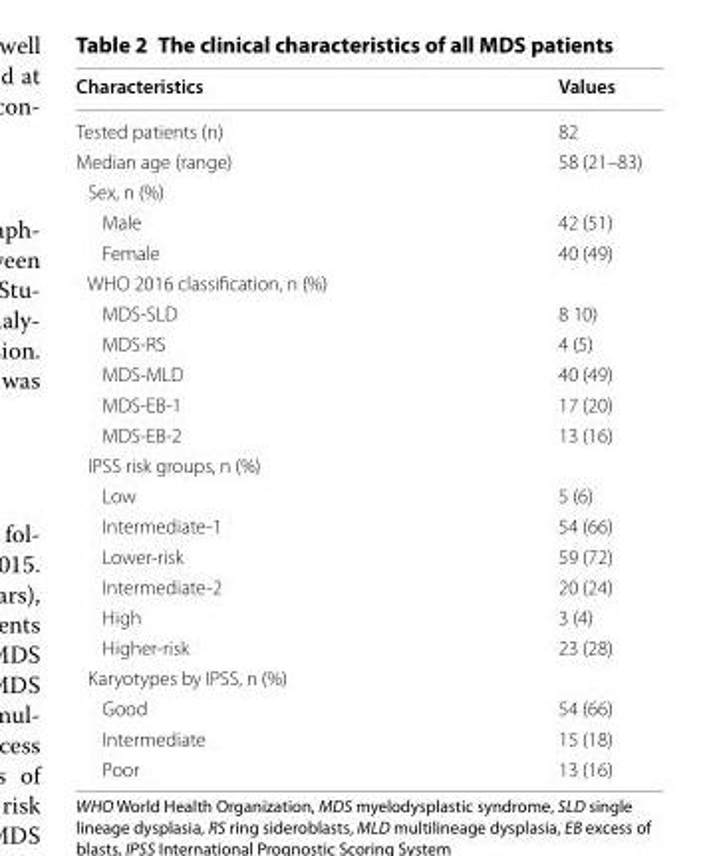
<table><thead><tr><td>Characteristics</td><td>Values</td></tr></thead><tbody><tr><td>Tested patients (n)</td><td>82</td></tr><tr><td>Median age (range)</td><td>58 (21–83)</td></tr><tr><td colspan="2">Sex, n (%)</td></tr><tr><td>Male</td><td>42 (51)</td></tr><tr><td>Female</td><td>40 (49)</td></tr><tr><td colspan="2">WHO 2016 classification, n (%)</td></tr><tr><td>MDS‑SLD</td><td>8 10)</td></tr><tr><td>MDS‑RS</td><td>4 (5)</td></tr><tr><td>MDS‑MLD</td><td>40 (49)</td></tr><tr><td>MDS‑EB‑1</td><td>17 (20)</td></tr><tr><td>MDS‑EB‑2</td><td>13 (16)</td></tr><tr><td colspan="2">IPSS risk groups, n (%)</td></tr><tr><td>Low</td><td>5 (6)</td></tr><tr><td>Intermediate‑1</td><td>54 (66)</td></tr><tr><td>Lower‑risk</td><td>59 (72)</td></tr><tr><td>Intermediate‑2</td><td>20 (24)</td></tr><tr><td>High</td><td>3 (4)</td></tr><tr><td>Higher‑risk</td><td>23 (28)</td></tr><tr><td colspan="2">Karyotypes by IPSS, n (%)</td></tr><tr><td>Good</td><td>54 (66)</td></tr><tr><td>Intermediate</td><td>15 (18)</td></tr><tr><td>Poor</td><td>13 (16)</td></tr></tbody></table>